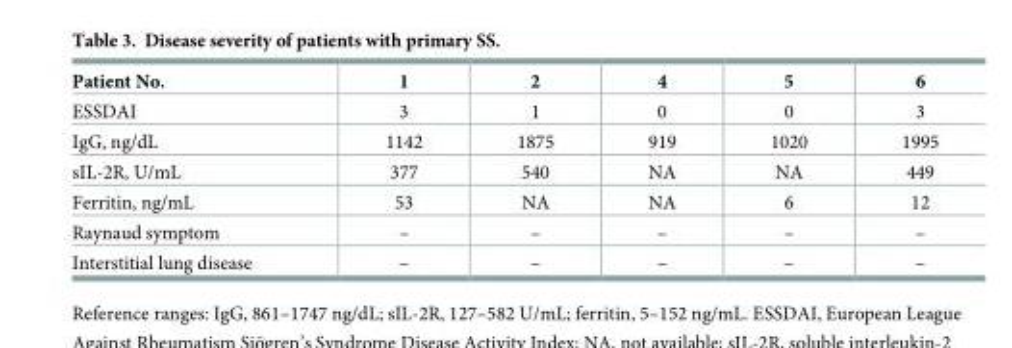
<table><thead><tr><td>Patient No.</td><td>1</td><td>2</td><td>4</td><td>5</td><td>6</td></tr></thead><tbody><tr><td>ESSDAI</td><td>3</td><td>1</td><td>0</td><td>0</td><td>3</td></tr><tr><td>IgG, ng/dL</td><td>1142</td><td>1875</td><td>919</td><td>1020</td><td>1995</td></tr><tr><td>sIL-2R, U/mL</td><td>377</td><td>540</td><td>NA</td><td>NA</td><td>449</td></tr><tr><td>Ferritin, ng/mL</td><td>53</td><td>NA</td><td>NA</td><td>6</td><td>12</td></tr><tr><td>Raynaud symptom</td><td>–</td><td>–</td><td>–</td><td>–</td><td>–</td></tr><tr><td>Interstitial lung disease</td><td>–</td><td>–</td><td>–</td><td>–</td><td>–</td></tr></tbody></table>